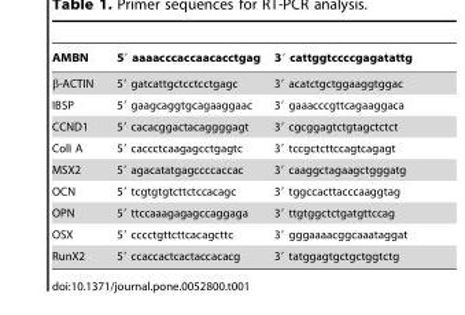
<table><thead><tr><td>AMBN</td><td>5′ aaaacccaccaacacctgag</td><td>3′ cattggtccccgagatattg</td></tr></thead><tbody><tr><td>β-ACTIN</td><td>5′ gatcattgctcctcctgagc</td><td>3′ acatctgctggaaggtggac</td></tr><tr><td>IBSP</td><td>5′ gaagcaggtgcagaaggaac</td><td>3′ gaaacccgttcagaaggaca</td></tr><tr><td>CCND1</td><td>5′ cacacggactacaggggagt</td><td>3′ cgcggagtctgtagctctct</td></tr><tr><td>ColI A</td><td>5′ caccctcaagagcctgagtc</td><td>3′ tccgctcttccagtcagagt</td></tr><tr><td>MSX2</td><td>5′ agacatatgagccccaccac</td><td>3′ caaggctagaagctgggatg</td></tr><tr><td>OCN</td><td>5′ tcgtgtgtcttctccacagc</td><td>3′ tggccacttacccaaggtag</td></tr><tr><td>OPN</td><td>5′ ttccaaagagagccaggaga</td><td>3′ ttgtggctctgatgttccag</td></tr><tr><td>OSX</td><td>5′ cccctgttcttcacagcttc</td><td>3′ gggaaaacggcaaataggat</td></tr><tr><td>RunX2</td><td>5′ ccaccactcactaccacacg</td><td>3′ tatggagtgctgctggtctg</td></tr></tbody></table>